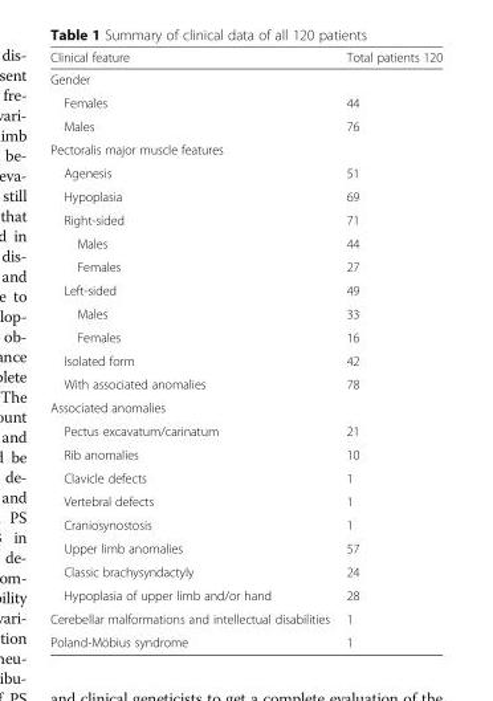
<table><thead><tr><td>Clinical feature</td><td>Total patients 120</td></tr></thead><tbody><tr><td colspan="2">Gender</td></tr><tr><td>Females</td><td>44</td></tr><tr><td>Males</td><td>76</td></tr><tr><td colspan="2">Pectoralis major muscle features</td></tr><tr><td>Agenesis</td><td>51</td></tr><tr><td>Hypoplasia</td><td>69</td></tr><tr><td>Right-sided</td><td>71</td></tr><tr><td>Males</td><td>44</td></tr><tr><td>Females</td><td>27</td></tr><tr><td>Left-sided</td><td>49</td></tr><tr><td>Males</td><td>33</td></tr><tr><td>Females</td><td>16</td></tr><tr><td>Isolated form</td><td>42</td></tr><tr><td>With associated anomalies</td><td>78</td></tr><tr><td colspan="2">Associated anomalies</td></tr><tr><td>Pectus excavatum/carinatum</td><td>21</td></tr><tr><td>Rib anomalies</td><td>10</td></tr><tr><td>Clavicle defects</td><td>1</td></tr><tr><td>Vertebral defects</td><td>1</td></tr><tr><td>Craniosynostosis</td><td>1</td></tr><tr><td>Upper limb anomalies</td><td>57</td></tr><tr><td>Classic brachysyndactyly</td><td>24</td></tr><tr><td>Hypoplasia of upper limb and/or hand</td><td>28</td></tr><tr><td>Cerebellar malformations and intellectual disabilities</td><td>1</td></tr><tr><td>Poland-Möbius syndrome</td><td>1</td></tr></tbody></table>